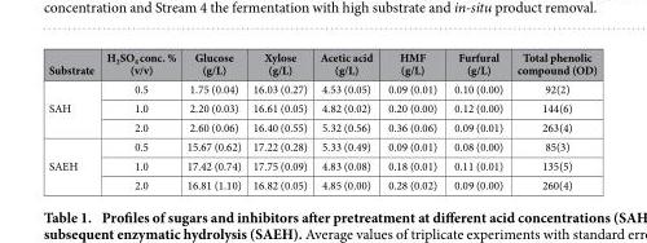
<table><thead><tr><td>Substrate</td><td>H<sub>2</sub>SO<sub>4</sub> conc. % (v/v)</td><td>Glucose (g/L)</td><td>Xylose (g/L)</td><td>Acetic acid (g/L)</td><td>HMF (g/L)</td><td>Furfural (g/L)</td><td>Total phenolic compound (OD)</td></tr></thead><tbody><tr><td rowspan="3">SAH</td><td>0.5</td><td>1.75 (0.04)</td><td>16.03 (0.27)</td><td>4.53 (0.05)</td><td>0.09 (0.01)</td><td>0.10 (0.00)</td><td>92(2)</td></tr><tr><td>1.0</td><td>2.20 (0.03)</td><td>16.61 (0.05)</td><td>4.82 (0.02)</td><td>0.20 (0.00)</td><td>0.12 (0.00)</td><td>144(6)</td></tr><tr><td>2.0</td><td>2.60 (0.06)</td><td>16.40 (0.55)</td><td>5.32 (0.56)</td><td>0.36 (0.06)</td><td>0.09 (0.01)</td><td>263(4)</td></tr><tr><td rowspan="3">SAEH</td><td>0.5</td><td>15.67 (0.62)</td><td>17.22 (0.28)</td><td>5.33 (0.49)</td><td>0.09 (0.01)</td><td>0.08 (0.00)</td><td>85(3)</td></tr><tr><td>1.0</td><td>17.42 (0.74)</td><td>17.75 (0.09)</td><td>4.83 (0.08)</td><td>0.18 (0.01)</td><td>0.11 (0.01)</td><td>135(5)</td></tr><tr><td>2.0</td><td>16.81 (1.10)</td><td>16.82 (0.05)</td><td>4.85 (0.00)</td><td>0.28 (0.02)</td><td>0.09 (0.00)</td><td>260(4)</td></tr></tbody></table>